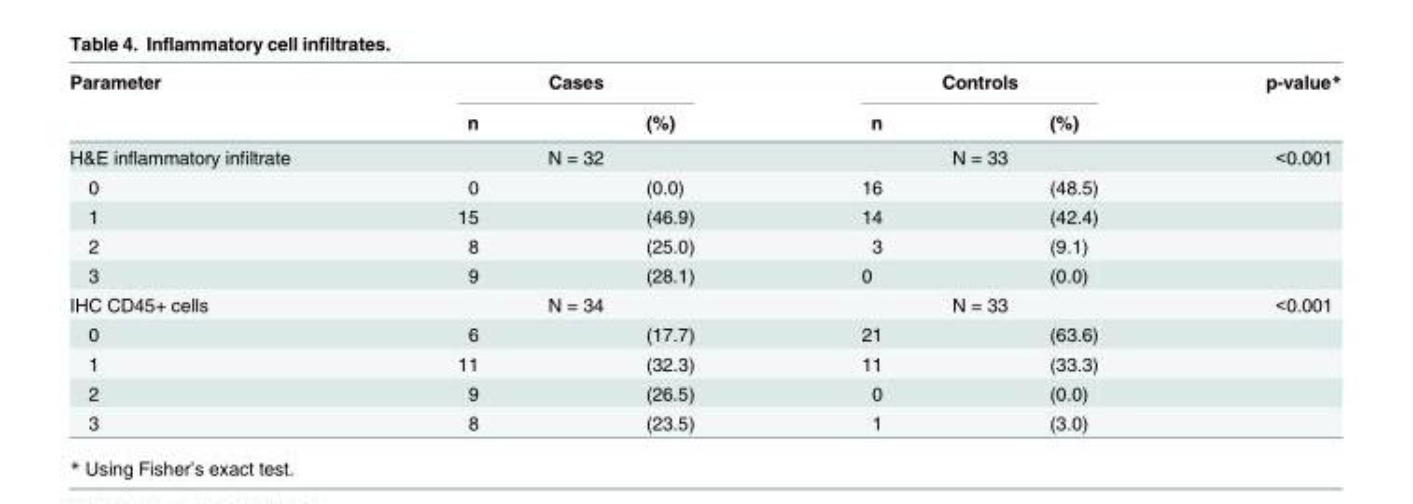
<table><thead><tr><td rowspan="2">Parameter</td><td colspan="2">Cases</td><td colspan="2">Controls</td><td rowspan="2">p-value*</td></tr><tr><td>n</td><td>(%)</td><td>n</td><td>(%)</td></tr></thead><tbody><tr><td>H&amp;E inflammatory infiltrate</td><td colspan="2">N = 32</td><td colspan="2">N = 33</td><td>&lt;0.001</td></tr><tr><td>0</td><td>0</td><td>(0.0)</td><td>16</td><td>(48.5)</td><td></td></tr><tr><td>1</td><td>15</td><td>(46.9)</td><td>14</td><td>(42.4)</td><td></td></tr><tr><td>2</td><td>8</td><td>(25.0)</td><td>3</td><td>(9.1)</td><td></td></tr><tr><td>3</td><td>9</td><td>(28.1)</td><td>0</td><td>(0.0)</td><td></td></tr><tr><td>IHC CD45+ cells</td><td colspan="2">N = 34</td><td colspan="2">N = 33</td><td>&lt;0.001</td></tr><tr><td>0</td><td>6</td><td>(17.7)</td><td>21</td><td>(63.6)</td><td></td></tr><tr><td>1</td><td>11</td><td>(32.3)</td><td>11</td><td>(33.3)</td><td></td></tr><tr><td>2</td><td>9</td><td>(26.5)</td><td>0</td><td>(0.0)</td><td></td></tr><tr><td>3</td><td>8</td><td>(23.5)</td><td>1</td><td>(3.0)</td><td></td></tr></tbody></table>